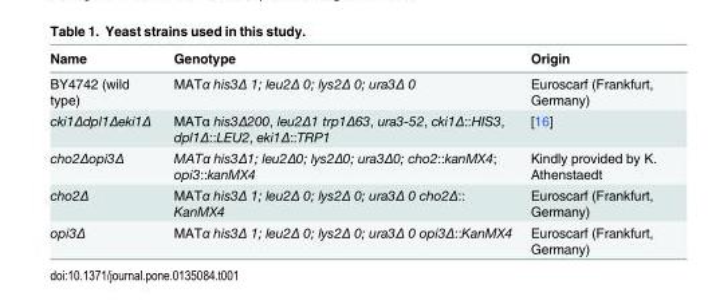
<table><thead><tr><td>Name</td><td>Genotype</td><td>Origin</td></tr></thead><tbody><tr><td>BY4742 (wild type)</td><td>MATα his3Δ 1; leu2Δ 0; lys2Δ 0; ura3Δ 0</td><td>Euroscarf (Frankfurt, Germany)</td></tr><tr><td>cki1Δdpl1Δeki1Δ</td><td>MATα his3Δ200, leu2Δ1 trp1Δ63, ura3-52, cki1Δ::HIS3, dpl1Δ::LEU2, eki1Δ::TRP1</td><td>[16]</td></tr><tr><td>cho2Δopi3Δ</td><td>MATα his3Δ1; leu2Δ0; lys2Δ0; ura3Δ0; cho2::kanMX4; opi3::kanMX4</td><td>Kindly provided by K. Athenstaedt</td></tr><tr><td>cho2Δ</td><td>MATα his3Δ 1; leu2Δ 0; lys2Δ 0; ura3Δ 0 cho2Δ:: KanMX4</td><td>Euroscarf (Frankfurt, Germany)</td></tr><tr><td>opi3Δ</td><td>MATα his3Δ 1; leu2Δ 0; lys2Δ 0; ura3Δ 0 opi3Δ::KanMX4</td><td>Euroscarf (Frankfurt, Germany)</td></tr></tbody></table>